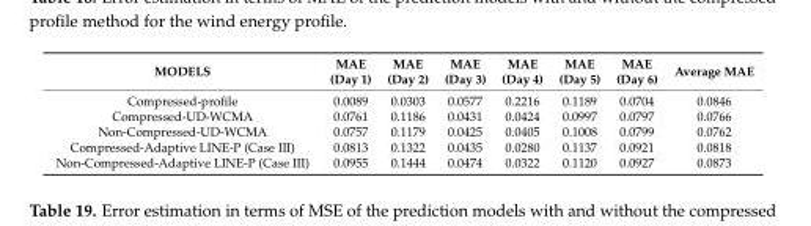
<table><thead><tr><td>MODELS</td><td>MAE (Day 1)</td><td>MAE (Day 2)</td><td>MAE (Day 3)</td><td>MAE (Day 4)</td><td>MAE (Day 5)</td><td>MAE (Day 6)</td><td>Average MAE</td></tr></thead><tbody><tr><td>Compressed-profile</td><td>0.0089</td><td>0.0303</td><td>0.0577</td><td>0.2216</td><td>0.1189</td><td>0.0704</td><td>0.0846</td></tr><tr><td>Compressed-UD-WCMA</td><td>0.0761</td><td>0.1186</td><td>0.0431</td><td>0.0424</td><td>0.0997</td><td>0.0797</td><td>0.0766</td></tr><tr><td>Non-Compressed-UD-WCMA</td><td>0.0757</td><td>0.1179</td><td>0.0425</td><td>0.0405</td><td>0.1008</td><td>0.0799</td><td>0.0762</td></tr><tr><td>Compressed-Adaptive LINE-P (Case III)</td><td>0.0813</td><td>0.1322</td><td>0.0435</td><td>0.0280</td><td>0.1137</td><td>0.0921</td><td>0.0818</td></tr><tr><td>Non-Compressed-Adaptive LINE-P (Case III)</td><td>0.0955</td><td>0.1444</td><td>0.0474</td><td>0.0322</td><td>0.1120</td><td>0.0927</td><td>0.0873</td></tr></tbody></table>